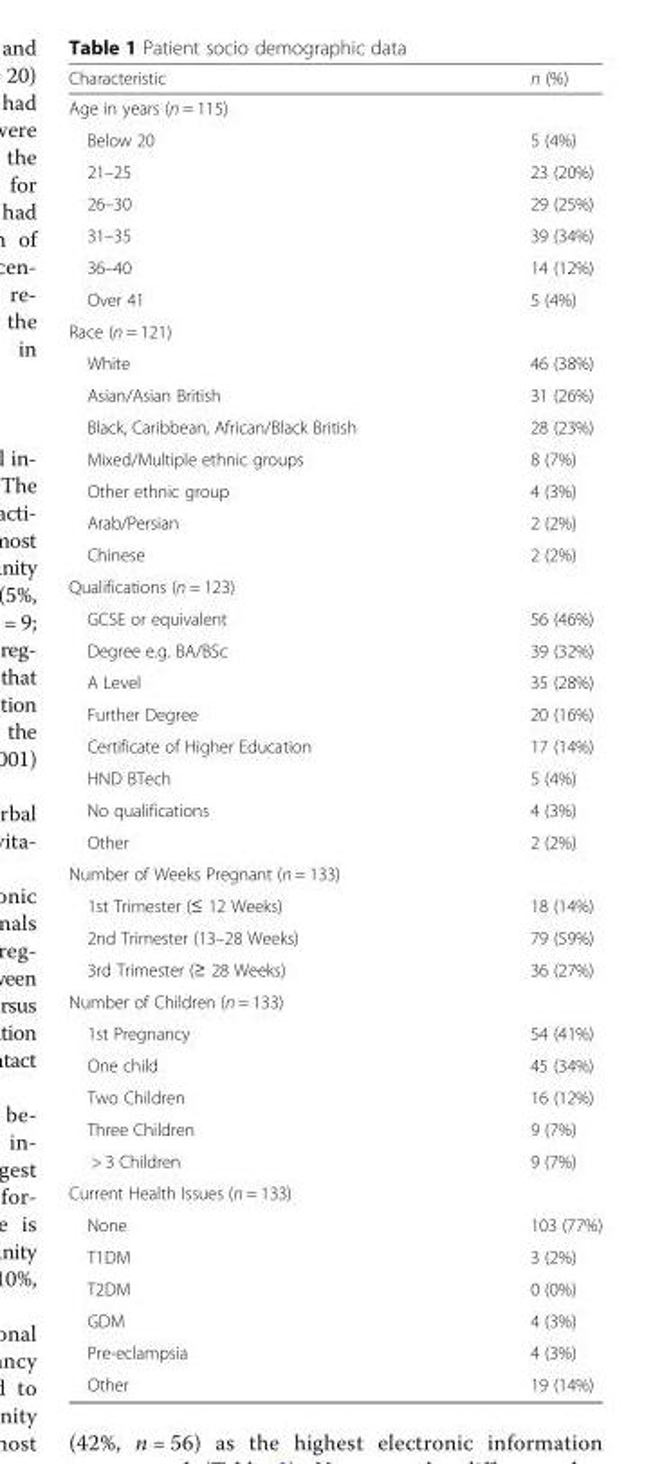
<table><thead><tr><td>Characteristic</td><td>n (%)</td></tr></thead><tbody><tr><td colspan="2">Age in years (n = 115)</td></tr><tr><td>Below 20</td><td>5 (4%)</td></tr><tr><td>21–25</td><td>23 (20%)</td></tr><tr><td>26–30</td><td>29 (25%)</td></tr><tr><td>31–35</td><td>39 (34%)</td></tr><tr><td>36–40</td><td>14 (12%)</td></tr><tr><td>Over 41</td><td>5 (4%)</td></tr><tr><td colspan="2">Race (n = 121)</td></tr><tr><td>White</td><td>46 (38%)</td></tr><tr><td>Asian/Asian British</td><td>31 (26%)</td></tr><tr><td>Black, Caribbean, African/Black British</td><td>28 (23%)</td></tr><tr><td>Mixed/Multiple ethnic groups</td><td>8 (7%)</td></tr><tr><td>Other ethnic group</td><td>4 (3%)</td></tr><tr><td>Arab/Persian</td><td>2 (2%)</td></tr><tr><td>Chinese</td><td>2 (2%)</td></tr><tr><td colspan="2">Qualifications (n = 123)</td></tr><tr><td>GCSE or equivalent</td><td>56 (46%)</td></tr><tr><td>Degree e.g. BA/BSc</td><td>39 (32%)</td></tr><tr><td>A Level</td><td>35 (28%)</td></tr><tr><td>Further Degree</td><td>20 (16%)</td></tr><tr><td>Certificate of Higher Education</td><td>17 (14%)</td></tr><tr><td>HND BTech</td><td>5 (4%)</td></tr><tr><td>No qualifications</td><td>4 (3%)</td></tr><tr><td>Other</td><td>2 (2%)</td></tr><tr><td colspan="2">Number of Weeks Pregnant (n = 133)</td></tr><tr><td>1st Trimester (≤ 12 Weeks)</td><td>18 (14%)</td></tr><tr><td>2nd Trimester (13–28 Weeks)</td><td>79 (59%)</td></tr><tr><td>3rd Trimester (≥ 28 Weeks)</td><td>36 (27%)</td></tr><tr><td colspan="2">Number of Children (n = 133)</td></tr><tr><td>1st Pregnancy</td><td>54 (41%)</td></tr><tr><td>One child</td><td>45 (34%)</td></tr><tr><td>Two Children</td><td>16 (12%)</td></tr><tr><td>Three Children</td><td>9 (7%)</td></tr><tr><td>&gt; 3 Children</td><td>9 (7%)</td></tr><tr><td colspan="2">Current Health Issues (n = 133)</td></tr><tr><td>None</td><td>103 (77%)</td></tr><tr><td>T1DM</td><td>3 (2%)</td></tr><tr><td>T2DM</td><td>0 (0%)</td></tr><tr><td>GDM</td><td>4 (3%)</td></tr><tr><td>Pre-eclampsia</td><td>4 (3%)</td></tr><tr><td>Other</td><td>19 (14%)</td></tr></tbody></table>